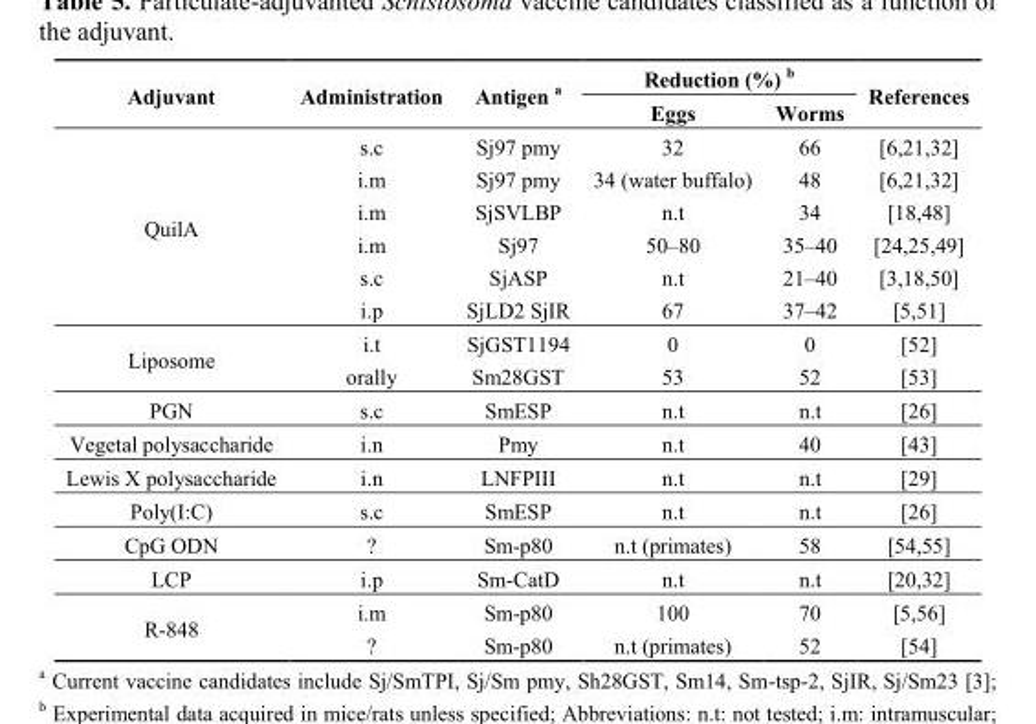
<table><thead><tr><td rowspan="2">Adjuvant</td><td rowspan="2">Administration</td><td rowspan="2">Antigen <sup>a</sup></td><td colspan="2">Reduction (%) <sup>b</sup></td><td rowspan="2">References</td></tr><tr><td>Eggs</td><td>Worms</td></tr></thead><tbody><tr><td rowspan="6">QuilA</td><td>s.c</td><td>Sj97 pmy</td><td>32</td><td>66</td><td>[6,21,32]</td></tr><tr><td>i.m</td><td>Sj97 pmy</td><td>34 (water buffalo)</td><td>48</td><td>[6,21,32]</td></tr><tr><td>i.m</td><td>SjSVLBP</td><td>n.t</td><td>34</td><td>[18,48]</td></tr><tr><td>i.m</td><td>Sj97</td><td>50–80</td><td>35–40</td><td>[24,25,49]</td></tr><tr><td>s.c</td><td>SjASP</td><td>n.t</td><td>21–40</td><td>[3,18,50]</td></tr><tr><td>i.p</td><td>SjLD2 SjIR</td><td>67</td><td>37–42</td><td>[5,51]</td></tr><tr><td rowspan="2">Liposome</td><td>i.t</td><td>SjGST1194</td><td>0</td><td>0</td><td>[52]</td></tr><tr><td>orally</td><td>Sm28GST</td><td>53</td><td>52</td><td>[53]</td></tr><tr><td>PGN</td><td>s.c</td><td>SmESP</td><td>n.t</td><td>n.t</td><td>[26]</td></tr><tr><td>Vegetal polysaccharide</td><td>i.n</td><td>Pmy</td><td>n.t</td><td>40</td><td>[43]</td></tr><tr><td>Lewis X polysaccharide</td><td>i.n</td><td>LNFPIII</td><td>n.t</td><td>n.t</td><td>[29]</td></tr><tr><td>Poly(I:C)</td><td>s.c</td><td>SmESP</td><td>n.t</td><td>n.t</td><td>[26]</td></tr><tr><td>CpG ODN</td><td>?</td><td>Sm-p80</td><td>n.t (primates)</td><td>58</td><td>[54,55]</td></tr><tr><td>LCP</td><td>i.p</td><td>Sm-CatD</td><td>n.t</td><td>n.t</td><td>[20,32]</td></tr><tr><td rowspan="2">R-848</td><td>i.m</td><td>Sm-p80</td><td>100</td><td>70</td><td>[5,56]</td></tr><tr><td>?</td><td>Sm-p80</td><td>n.t (primates)</td><td>52</td><td>[54]</td></tr></tbody></table>